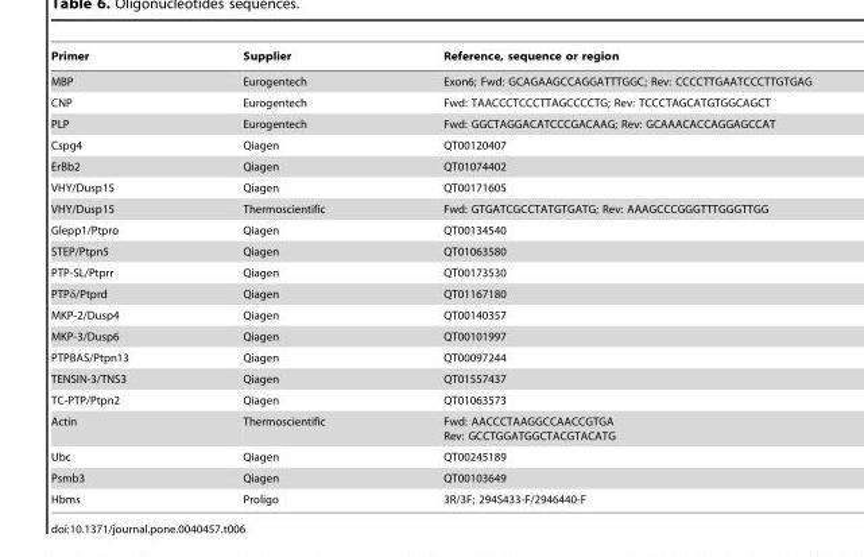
<table><thead><tr><td>Primer</td><td>Supplier</td><td>Reference, sequence or region</td></tr></thead><tbody><tr><td>MBP</td><td>Eurogentech</td><td>Exon6; Fwd: GCAGAAGCCAGGATTTGGC; Rev: CCCCTTGAATCCCTTGTGAG</td></tr><tr><td>CNP</td><td>Eurogentech</td><td>Fwd: TAACCCTCCCTTAGCCCCTG; Rev: TCCCTAGCATGTGGCAGCT</td></tr><tr><td>PLP</td><td>Eurogentech</td><td>Fwd: GGCTAGGACATCCCGACAAG; Rev: GCAAACACCAGGAGCCAT</td></tr><tr><td>Cspg4</td><td>Qiagen</td><td>QT00120407</td></tr><tr><td>ErBb2</td><td>Qiagen</td><td>QT01074402</td></tr><tr><td>VHY/Dusp15</td><td>Qiagen</td><td>QT00171605</td></tr><tr><td>VHY/Dusp15</td><td>Thermoscientific</td><td>Fwd: GTGATCGCCTATGTGATG; Rev: AAAGCCCGGGTTTGGGTTGG</td></tr><tr><td>Glepp1/Ptpro</td><td>Qiagen</td><td>QT00134540</td></tr><tr><td>STEP/Ptpn5</td><td>Qiagen</td><td>QT01063580</td></tr><tr><td>PTP-SL/Ptprr</td><td>Qiagen</td><td>QT00173530</td></tr><tr><td>PTPδ/Ptprd</td><td>Qiagen</td><td>QT01167180</td></tr><tr><td>MKP-2/Dusp4</td><td>Qiagen</td><td>QT00140357</td></tr><tr><td>MKP-3/Dusp6</td><td>Qiagen</td><td>QT00101997</td></tr><tr><td>PTPBAS/Ptpn13</td><td>Qiagen</td><td>QT00097244</td></tr><tr><td>TENSIN-3/TNS3</td><td>Qiagen</td><td>QT01557437</td></tr><tr><td>TC-PTP/Ptpn2</td><td>Qiagen</td><td>QT01063573</td></tr><tr><td>Actin</td><td>Thermoscientific</td><td>Fwd: AACCCTAAGGCCAACCGTGA Rev: GCCTGGATGGCTACGTACATG</td></tr><tr><td>Ubc</td><td>Qiagen</td><td>QT00245189</td></tr><tr><td>Psmb3</td><td>Qiagen</td><td>QT00103649</td></tr><tr><td>Hbms</td><td>Proligo</td><td>3R/3F; 294S433-F/2946440-F</td></tr></tbody></table>